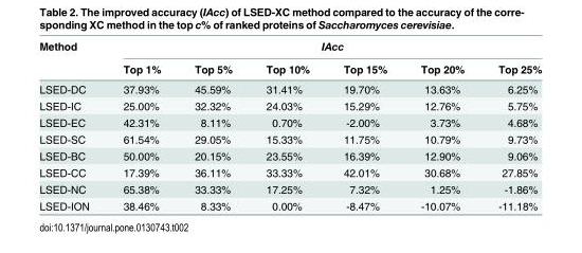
<table><thead><tr><td rowspan="2">Method</td><td colspan="6">IAcc</td></tr><tr><td>Top 1%</td><td>Top 5%</td><td>Top 10%</td><td>Top 15%</td><td>Top 20%</td><td>Top 25%</td></tr></thead><tbody><tr><td>LSED-DC</td><td>37.93%</td><td>45.59%</td><td>31.41%</td><td>19.70%</td><td>13.63%</td><td>6.25%</td></tr><tr><td>LSED-IC</td><td>25.00%</td><td>32.32%</td><td>24.03%</td><td>15.29%</td><td>12.76%</td><td>5.75%</td></tr><tr><td>LSED-EC</td><td>42.31%</td><td>8.11%</td><td>0.70%</td><td>-2.00%</td><td>3.73%</td><td>4.68%</td></tr><tr><td>LSED-SC</td><td>61.54%</td><td>29.05%</td><td>15.33%</td><td>11.75%</td><td>10.79%</td><td>9.73%</td></tr><tr><td>LSED-BC</td><td>50.00%</td><td>20.15%</td><td>23.55%</td><td>16.39%</td><td>12.90%</td><td>9.06%</td></tr><tr><td>LSED-CC</td><td>17.39%</td><td>36.11%</td><td>33.33%</td><td>42.01%</td><td>30.68%</td><td>27.85%</td></tr><tr><td>LSED-NC</td><td>65.38%</td><td>33.33%</td><td>17.25%</td><td>7.32%</td><td>1.25%</td><td>-1.86%</td></tr><tr><td>LSED-ION</td><td>38.46%</td><td>8.33%</td><td>0.00%</td><td>-8.47%</td><td>-10.07%</td><td>-11.18%</td></tr></tbody></table>